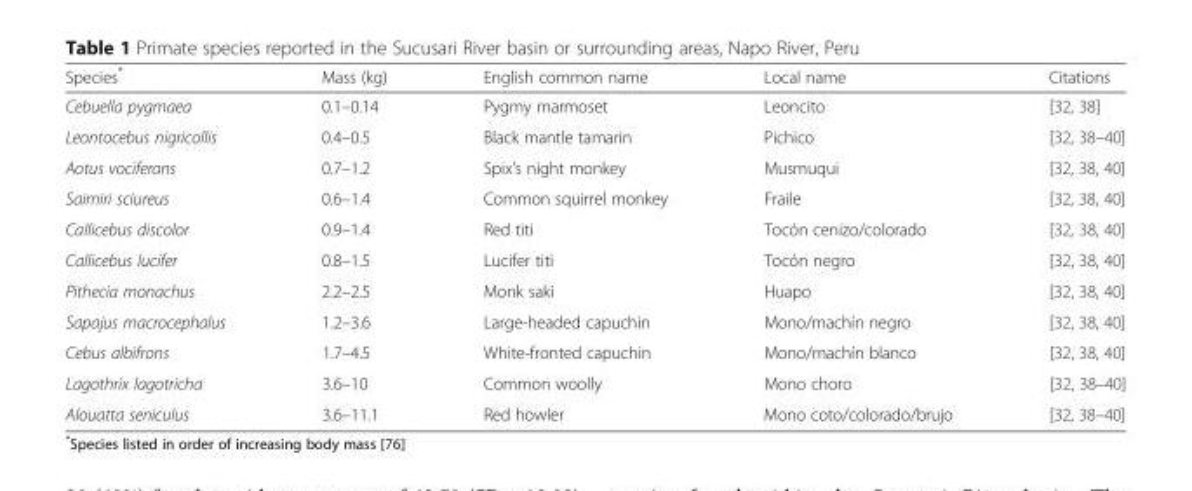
<table><thead><tr><td>Species*</td><td>Mass (kg)</td><td>English common name</td><td>Local name</td><td>Citations</td></tr></thead><tbody><tr><td>Cebuella pygmaea</td><td>0.1–0.14</td><td>Pygmy marmoset</td><td>Leoncito</td><td>[32, 38]</td></tr><tr><td>Leontocebus nigricollis</td><td>0.4–0.5</td><td>Black mantle tamarin</td><td>Pichico</td><td>[32, 38–40]</td></tr><tr><td>Aotus vociferans</td><td>0.7–1.2</td><td>Spix’s night monkey</td><td>Musmuqui</td><td>[32, 38, 40]</td></tr><tr><td>Saimiri sciureus</td><td>0.6–1.4</td><td>Common squirrel monkey</td><td>Fraile</td><td>[32, 38, 40]</td></tr><tr><td>Callicebus discolor</td><td>0.9–1.4</td><td>Red titi</td><td>Tocón cenizo/colorado</td><td>[32, 38, 40]</td></tr><tr><td>Callicebus lucifer</td><td>0.8–1.5</td><td>Lucifer titi</td><td>Tocón negro</td><td>[32, 38, 40]</td></tr><tr><td>Pithecia monachus</td><td>2.2–2.5</td><td>Monk saki</td><td>Huapo</td><td>[32, 38, 40]</td></tr><tr><td>Sapajus macrocephalus</td><td>1.2–3.6</td><td>Large-headed capuchin</td><td>Mono/machín negro</td><td>[32, 38, 40]</td></tr><tr><td>Cebus albifrons</td><td>1.7–4.5</td><td>White-fronted capuchin</td><td>Mono/machín blanco</td><td>[32, 38, 40]</td></tr><tr><td>Lagothrix lagotricha</td><td>3.6–10</td><td>Common woolly</td><td>Mono choro</td><td>[32, 38–40]</td></tr><tr><td>Alouatta seniculus</td><td>3.6–11.1</td><td>Red howler</td><td>Mono coto/colorado/brujo</td><td>[32, 38–40]</td></tr></tbody></table>